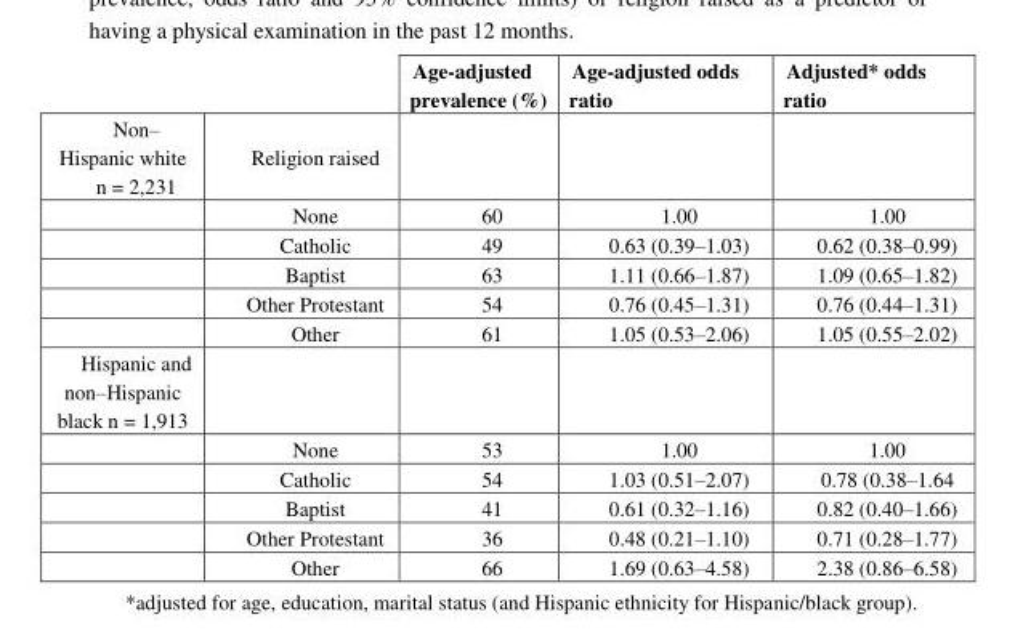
<table><thead><tr><td></td><td></td><td>Age-adjusted prevalence (%)</td><td>Age-adjusted odds ratio</td><td>Adjusted* odds ratio</td></tr></thead><tbody><tr><td rowspan="6">Non– Hispanic white n = 2,231</td><td>Religion raised</td><td></td><td></td><td></td></tr><tr><td>None</td><td>60</td><td>1.00</td><td>1.00</td></tr><tr><td>Catholic</td><td>49</td><td>0.63 (0.39–1.03)</td><td>0.62 (0.38–0.99)</td></tr><tr><td>Baptist</td><td>63</td><td>1.11 (0.66–1.87)</td><td>1.09 (0.65–1.82)</td></tr><tr><td>Other Protestant</td><td>54</td><td>0.76 (0.45–1.31)</td><td>0.76 (0.44–1.31)</td></tr><tr><td>Other</td><td>61</td><td>1.05 (0.53–2.06)</td><td>1.05 (0.55–2.02)</td></tr><tr><td colspan="5">Hispanic and non–Hispanic black n = 1,913</td></tr><tr><td></td><td>None</td><td>53</td><td>1.00</td><td>1.00</td></tr><tr><td></td><td>Catholic</td><td>54</td><td>1.03 (0.51–2.07)</td><td>0.78 (0.38–1.64</td></tr><tr><td></td><td>Baptist</td><td>41</td><td>0.61 (0.32–1.16)</td><td>0.82 (0.40–1.66)</td></tr><tr><td></td><td>Other Protestant</td><td>36</td><td>0.48 (0.21–1.10)</td><td>0.71 (0.28–1.77)</td></tr><tr><td></td><td>Other</td><td>66</td><td>1.69 (0.63–4.58)</td><td>2.38 (0.86–6.58)</td></tr></tbody></table>